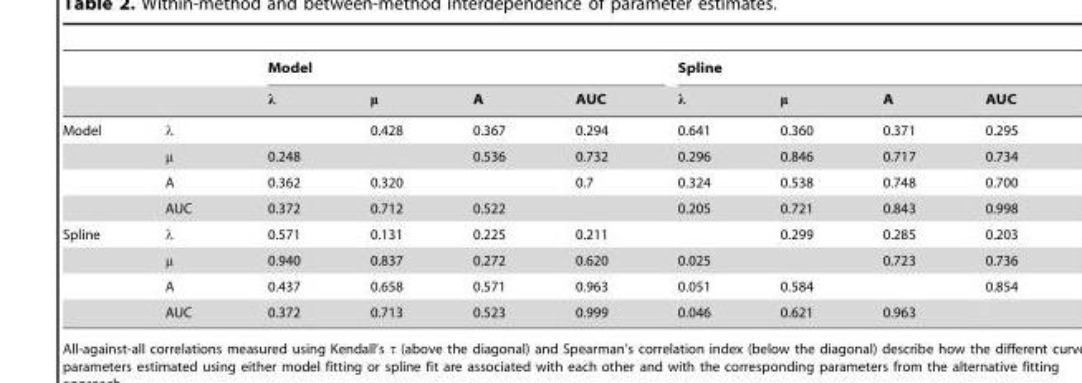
<table><thead><tr><td rowspan="2"></td><td rowspan="2"></td><td colspan="4">Model</td><td colspan="4">Spline</td></tr><tr><td>λ</td><td>μ</td><td>A</td><td>AUC</td><td>λ</td><td>μ</td><td>A</td><td>AUC</td></tr></thead><tbody><tr><td rowspan="4">Model</td><td>λ</td><td></td><td>0.428</td><td>0.367</td><td>0.294</td><td>0.641</td><td>0.360</td><td>0.371</td><td>0.295</td></tr><tr><td>μ</td><td>0.248</td><td></td><td>0.536</td><td>0.732</td><td>0.296</td><td>0.846</td><td>0.717</td><td>0.734</td></tr><tr><td>A</td><td>0.362</td><td>0.320</td><td></td><td>0.7</td><td>0.324</td><td>0.538</td><td>0.748</td><td>0.700</td></tr><tr><td>AUC</td><td>0.372</td><td>0.712</td><td>0.522</td><td></td><td>0.205</td><td>0.721</td><td>0.843</td><td>0.998</td></tr><tr><td rowspan="4">Spline</td><td>λ</td><td>0.571</td><td>0.131</td><td>0.225</td><td>0.211</td><td></td><td>0.299</td><td>0.285</td><td>0.203</td></tr><tr><td>μ</td><td>0.940</td><td>0.837</td><td>0.272</td><td>0.620</td><td>0.025</td><td></td><td>0.723</td><td>0.736</td></tr><tr><td>A</td><td>0.437</td><td>0.658</td><td>0.571</td><td>0.963</td><td>0.051</td><td>0.584</td><td></td><td>0.854</td></tr><tr><td>AUC</td><td>0.372</td><td>0.713</td><td>0.523</td><td>0.999</td><td>0.046</td><td>0.621</td><td>0.963</td><td></td></tr></tbody></table>